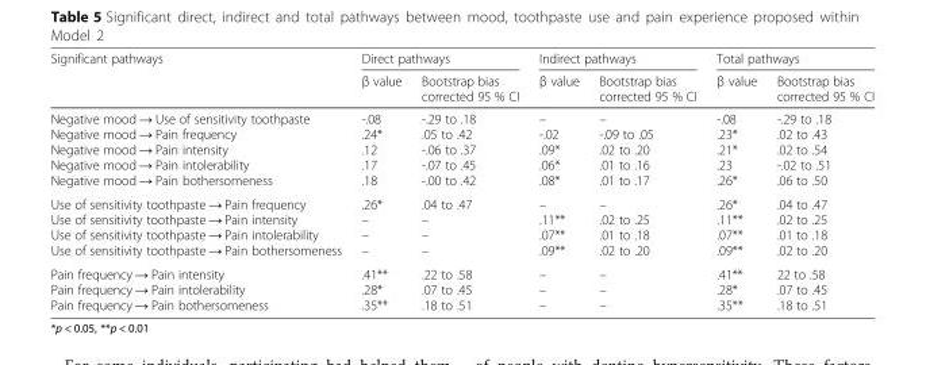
<table><thead><tr><td rowspan="2">Significant pathways</td><td colspan="2">Direct pathways</td><td colspan="2">Indirect pathways</td><td colspan="2">Total pathways</td></tr><tr><td>β value</td><td>Bootstrap bias corrected 95 % CI</td><td>β value</td><td>Bootstrap bias corrected 95 % CI</td><td>β value</td><td>Bootstrap bias corrected 95 % CI</td></tr></thead><tbody><tr><td>Negative mood → Use of sensitivity toothpaste Negative mood → Pain frequency Negative mood → Pain intensity Negative mood → Pain intolerability Negative mood → Pain bothersomeness</td><td>-.08 .24* .12 .17 .18</td><td>-.29 to .18 .05 to .42 -.06 to .37 -.07 to .45 -.00 to .42</td><td>– -.02 .09* .06* .08*</td><td>– -.09 to .05 .02 to .20 .01 to .16 .01 to .17</td><td>-.08 .23* .21* .23 .26*</td><td>-.29 to .18 .02 to .43 .02 to .54 -.02 to .51 .06 to .50</td></tr><tr><td>Use of sensitivity toothpaste → Pain frequency Use of sensitivity toothpaste → Pain intensity Use of sensitivity toothpaste → Pain intolerability Use of sensitivity toothpaste → Pain bothersomeness</td><td>.26* – – –</td><td>.04 to .47 – – –</td><td>– .11** .07** .09**</td><td>– .02 to .25 .01 to .18 .02 to .20</td><td>.26* .11** .07** .09**</td><td>.04 to .47 .02 to .25 .01 to .18 .02 to .20</td></tr><tr><td>Pain frequency → Pain intensity Pain frequency → Pain intolerability Pain frequency → Pain bothersomeness</td><td>.41** .28* .35**</td><td>.22 to .58 .07 to .45 .18 to .51</td><td>– – –</td><td>– – –</td><td>.41** .28* .35**</td><td>22 to .58 .07 to .45 .18 to .51</td></tr></tbody></table>